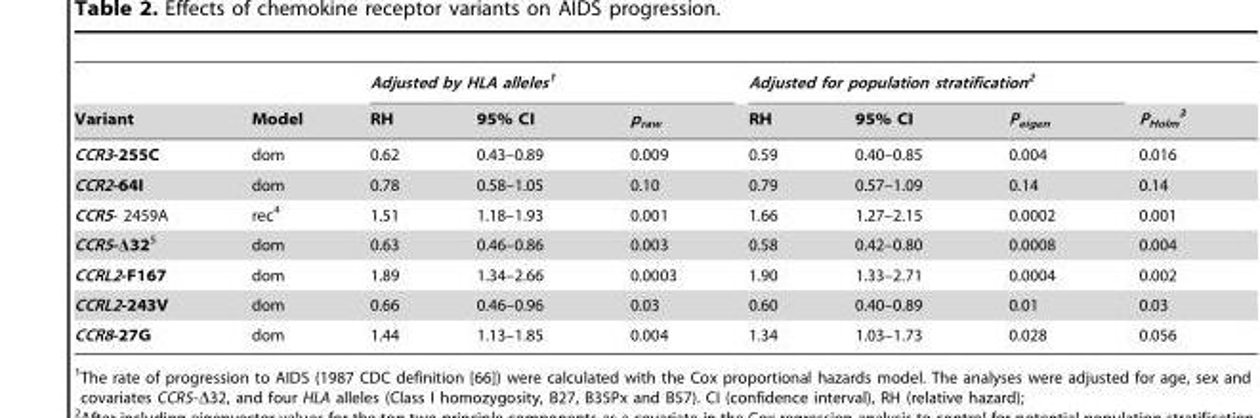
<table><thead><tr><td rowspan="2">Variant</td><td rowspan="2">Model</td><td colspan="3">Adjusted by HLA alleles1</td><td colspan="3">Adjusted for population stratification2</td><td rowspan="2">P<sub>Holm</sub> 3</td></tr><tr><td>RH</td><td>95% CI</td><td>p<sub>raw</sub></td><td>RH</td><td>95% CI</td><td>P<sub>eigen</sub></td></tr></thead><tbody><tr><td>CCR3-255C</td><td>dom</td><td>0.62</td><td>0.43–0.89</td><td>0.009</td><td>0.59</td><td>0.40–0.85</td><td>0.004</td><td>0.016</td></tr><tr><td>CCR2-64I</td><td>dom</td><td>0.78</td><td>0.58–1.05</td><td>0.10</td><td>0.79</td><td>0.57–1.09</td><td>0.14</td><td>0.14</td></tr><tr><td>CCR5- 2459A</td><td>rec<sup>4</sup></td><td>1.51</td><td>1.18–1.93</td><td>0.001</td><td>1.66</td><td>1.27–2.15</td><td>0.0002</td><td>0.001</td></tr><tr><td>CCR5-Δ325</td><td>dom</td><td>0.63</td><td>0.46–0.86</td><td>0.003</td><td>0.58</td><td>0.42–0.80</td><td>0.0008</td><td>0.004</td></tr><tr><td>CCRL2-F167</td><td>dom</td><td>1.89</td><td>1.34–2.66</td><td>0.0003</td><td>1.90</td><td>1.33–2.71</td><td>0.0004</td><td>0.002</td></tr><tr><td>CCRL2-243V</td><td>dom</td><td>0.66</td><td>0.46–0.96</td><td>0.03</td><td>0.60</td><td>0.40–0.89</td><td>0.01</td><td>0.03</td></tr><tr><td>CCR8-27G</td><td>dom</td><td>1.44</td><td>1.13–1.85</td><td>0.004</td><td>1.34</td><td>1.03–1.73</td><td>0.028</td><td>0.056</td></tr></tbody></table>